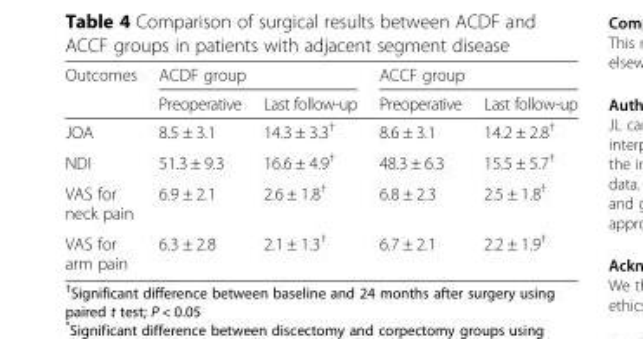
<table><thead><tr><td rowspan="2">Outcomes</td><td colspan="2">ACDF group</td><td colspan="2">ACCF group</td></tr><tr><td>Preoperative</td><td>Last follow-up</td><td>Preoperative</td><td>Last follow-up</td></tr></thead><tbody><tr><td>JOA</td><td>8.5 ± 3.1</td><td>14.3 ± 3.3<sup>†</sup></td><td>8.6 ± 3.1</td><td>14.2 ± 2.8<sup>†</sup></td></tr><tr><td>NDI</td><td>51.3 ± 9.3</td><td>16.6 ± 4.9<sup>†</sup></td><td>48.3 ± 6.3</td><td>15.5 ± 5.7<sup>†</sup></td></tr><tr><td>VAS for neck pain</td><td>6.9 ± 2.1</td><td>2.6 ± 1.8<sup>†</sup></td><td>6.8 ± 2.3</td><td>2.5 ± 1.8<sup>†</sup></td></tr><tr><td>VAS for arm pain</td><td>6.3 ± 2.8</td><td>2.1 ± 1.3<sup>†</sup></td><td>6.7 ± 2.1</td><td>2.2 ± 1.9<sup>†</sup></td></tr></tbody></table>